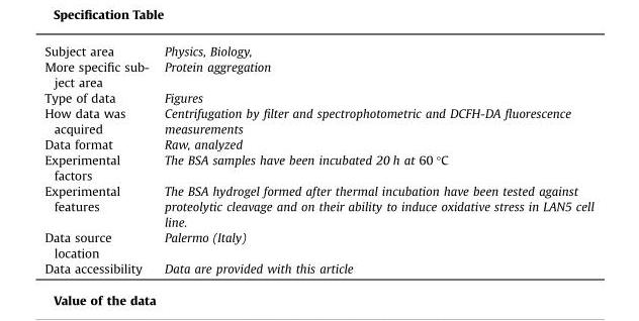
<table><tbody><tr><td>Subject area</td><td>Physics, Biology,</td></tr><tr><td>More specific sub- ject area</td><td>Protein aggregation</td></tr><tr><td>Type of data</td><td>Figures</td></tr><tr><td>How data was acquired</td><td>Centrifugation by filter and spectrophotometric and DCFH-DA fluorescence measurements</td></tr><tr><td>Data format</td><td>Raw, analyzed</td></tr><tr><td>Experimental factors</td><td>The BSA samples have been incubated 20 h at 60 °C</td></tr><tr><td>Experimental features</td><td>The BSA hydrogel formed after thermal incubation have been tested against proteolytic cleavage and on their ability to induce oxidative stress in LAN5 cell line.</td></tr><tr><td>Data source location</td><td>Palermo (Italy)</td></tr><tr><td>Data accessibility</td><td>Data are provided with this article</td></tr></tbody></table>